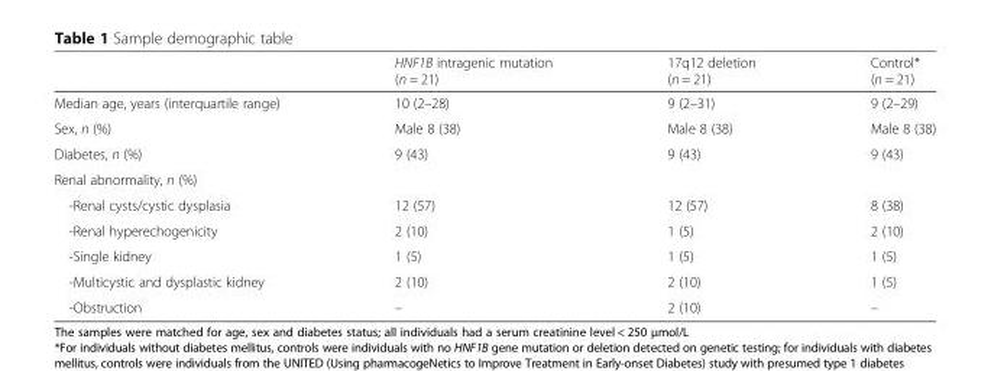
<table><thead><tr><td></td><td>HNF1B intragenic mutation (n = 21)</td><td>17q12 deletion (n = 21)</td><td>Control* (n = 21)</td></tr></thead><tbody><tr><td>Median age, years (interquartile range)</td><td>10 (2–28)</td><td>9 (2–31)</td><td>9 (2–29)</td></tr><tr><td>Sex, n (%)</td><td>Male 8 (38)</td><td>Male 8 (38)</td><td>Male 8 (38)</td></tr><tr><td>Diabetes, n (%)</td><td>9 (43)</td><td>9 (43)</td><td>9 (43)</td></tr><tr><td colspan="4">Renal abnormality, n (%)</td></tr><tr><td>-Renal cysts/cystic dysplasia</td><td>12 (57)</td><td>12 (57)</td><td>8 (38)</td></tr><tr><td>-Renal hyperechogenicity</td><td>2 (10)</td><td>1 (5)</td><td>2 (10)</td></tr><tr><td>-Single kidney</td><td>1 (5)</td><td>1 (5)</td><td>1 (5)</td></tr><tr><td>-Multicystic and dysplastic kidney</td><td>2 (10)</td><td>2 (10)</td><td>1 (5)</td></tr><tr><td>-Obstruction</td><td>–</td><td>2 (10)</td><td>–</td></tr></tbody></table>